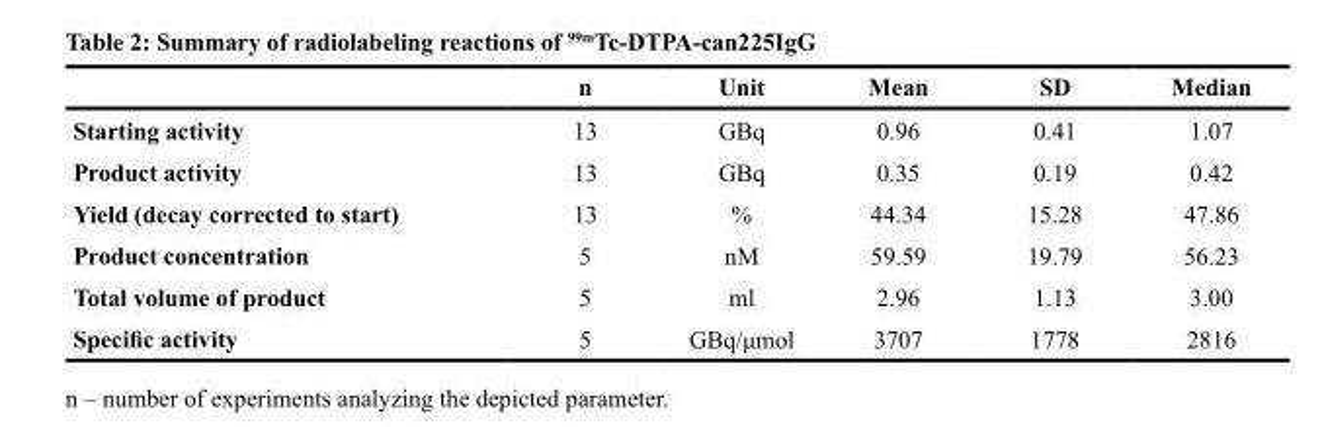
<table><thead><tr><td></td><td>n</td><td>Unit</td><td>Mean</td><td>SD</td><td>Median</td></tr></thead><tbody><tr><td>Starting activity</td><td>13</td><td>GBq</td><td>0.96</td><td>0.41</td><td>1.07</td></tr><tr><td>Product activity</td><td>13</td><td>GBq</td><td>0.35</td><td>0.19</td><td>0.42</td></tr><tr><td>Yield (decay corrected to start)</td><td>13</td><td>%</td><td>44.34</td><td>15.28</td><td>47.86</td></tr><tr><td>Product concentration</td><td>5</td><td>nM</td><td>59.59</td><td>19.79</td><td>56.23</td></tr><tr><td>Total volume of product</td><td>5</td><td>ml</td><td>2.96</td><td>1.13</td><td>3.00</td></tr><tr><td>Specific activity</td><td>5</td><td>GBq/μmol</td><td>3707</td><td>1778</td><td>2816</td></tr></tbody></table>